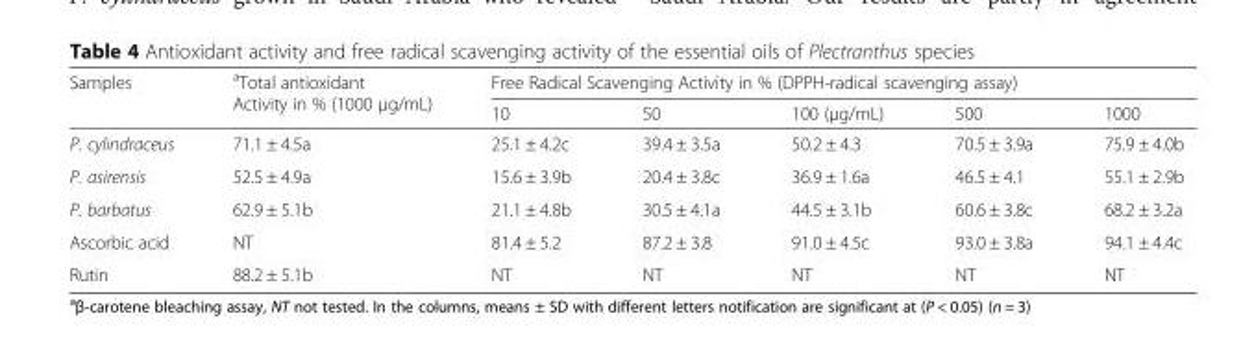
<table><thead><tr><td rowspan="2">Samples</td><td rowspan="2"><sup>a</sup>Total antioxidant Activity in % (1000 μg/mL)</td><td colspan="5">Free Radical Scavenging Activity in % (DPPH-radical scavenging assay)</td></tr><tr><td>10</td><td>50</td><td>100 (μg/mL)</td><td>500</td><td>1000</td></tr></thead><tbody><tr><td>P. cylindraceus</td><td>71.1 ± 4.5a</td><td>25.1 ± 4.2c</td><td>39.4 ± 3.5a</td><td>50.2 ± 4.3</td><td>70.5 ± 3.9a</td><td>75.9 ± 4.0b</td></tr><tr><td>P. asirensis</td><td>52.5 ± 4.9a</td><td>15.6 ± 3.9b</td><td>20.4 ± 3.8c</td><td>36.9 ± 1.6a</td><td>46.5 ± 4.1</td><td>55.1 ± 2.9b</td></tr><tr><td>P. barbatus</td><td>62.9 ± 5.1b</td><td>21.1 ± 4.8b</td><td>30.5 ± 4.1a</td><td>44.5 ± 3.1b</td><td>60.6 ± 3.8c</td><td>68.2 ± 3.2a</td></tr><tr><td>Ascorbic acid</td><td>NT</td><td>81.4 ± 5.2</td><td>87.2 ± 3.8</td><td>91.0 ± 4.5c</td><td>93.0 ± 3.8a</td><td>94.1 ± 4.4c</td></tr><tr><td>Rutin</td><td>88.2 ± 5.1b</td><td>NT</td><td>NT</td><td>NT</td><td>NT</td><td>NT</td></tr></tbody></table>